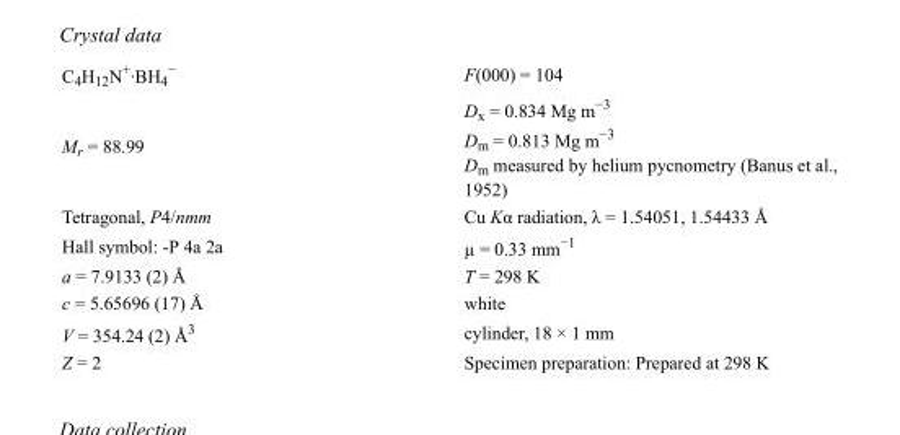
<table><tbody><tr><td>C<sub>4</sub>H<sub>12</sub>N<sup>+</sup>·BH<sub>4</sub> <sup>−</sup></td><td>F(000) = 104</td></tr><tr><td>M<sub>r</sub> = 88.99</td><td>D<sub>x</sub> = 0.834 Mg m<sup>−3</sup> D<sub>m</sub> = 0.813 Mg m<sup>−3</sup> D<sub>m</sub> measured by helium pycnometry (Banus et al., 1952)</td></tr><tr><td>Tetragonal, P4/nmm</td><td>Cu Kα radiation, λ = 1.54051, 1.54433 Å</td></tr><tr><td>Hall symbol: -P 4a 2a</td><td>µ = 0.33 mm<sup>−1</sup></td></tr><tr><td>a = 7.9133 (2) Å</td><td>T = 298 K</td></tr><tr><td>c = 5.65696 (17) Å</td><td>white</td></tr><tr><td>V = 354.24 (2) Å<sup>3</sup></td><td>cylinder, 18 × 1 mm</td></tr><tr><td>Z = 2</td><td>Specimen preparation: Prepared at 298 K</td></tr></tbody></table>